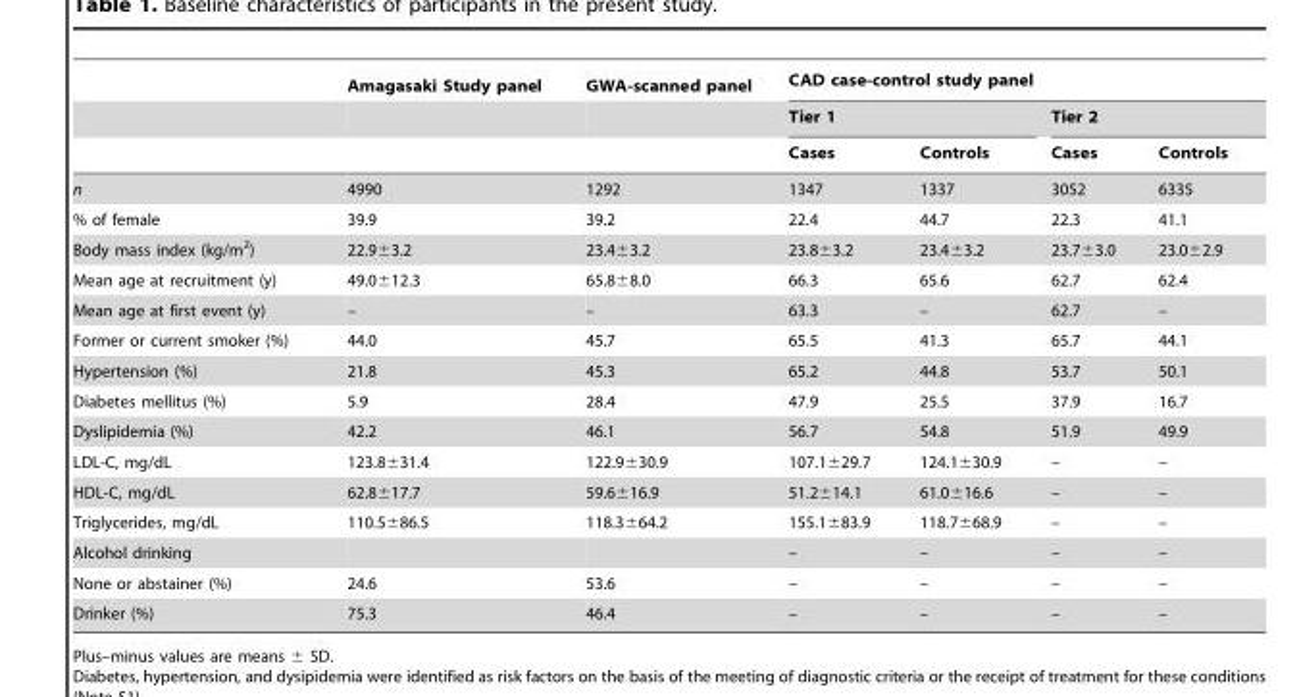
<table><thead><tr><td rowspan="3"></td><td rowspan="3">Amagasaki Study panel</td><td rowspan="3">GWA-scanned panel</td><td colspan="4">CAD case-control study panel</td></tr><tr><td colspan="2">Tier 1</td><td colspan="2">Tier 2</td></tr><tr><td>Cases</td><td>Controls</td><td>Cases</td><td>Controls</td></tr></thead><tbody><tr><td>n</td><td>4990</td><td>1292</td><td>1347</td><td>1337</td><td>3052</td><td>6335</td></tr><tr><td>% of female</td><td>39.9</td><td>39.2</td><td>22.4</td><td>44.7</td><td>22.3</td><td>41.1</td></tr><tr><td>Body mass index (kg/m<sup>2</sup>)</td><td>22.9±3.2</td><td>23.4±3.2</td><td>23.8±3.2</td><td>23.4±3.2</td><td>23.7±3.0</td><td>23.0±2.9</td></tr><tr><td>Mean age at recruitment (y)</td><td>49.0±12.3</td><td>65.8±8.0</td><td>66.3</td><td>65.6</td><td>62.7</td><td>62.4</td></tr><tr><td>Mean age at first event (y)</td><td>–</td><td>–</td><td>63.3</td><td>–</td><td>62.7</td><td>–</td></tr><tr><td>Former or current smoker (%)</td><td>44.0</td><td>45.7</td><td>65.5</td><td>41.3</td><td>65.7</td><td>44.1</td></tr><tr><td>Hypertension (%)</td><td>21.8</td><td>45.3</td><td>65.2</td><td>44.8</td><td>53.7</td><td>50.1</td></tr><tr><td>Diabetes mellitus (%)</td><td>5.9</td><td>28.4</td><td>47.9</td><td>25.5</td><td>37.9</td><td>16.7</td></tr><tr><td>Dyslipidemia (%)</td><td>42.2</td><td>46.1</td><td>56.7</td><td>54.8</td><td>51.9</td><td>49.9</td></tr><tr><td>LDL-C, mg/dL</td><td>123.8±31.4</td><td>122.9±30.9</td><td>107.1±29.7</td><td>124.1±30.9</td><td>–</td><td>–</td></tr><tr><td>HDL-C, mg/dL</td><td>62.8±17.7</td><td>59.6±16.9</td><td>51.2±14.1</td><td>61.0±16.6</td><td>–</td><td>–</td></tr><tr><td>Triglycerides, mg/dL</td><td>110.5±86.5</td><td>118.3±64.2</td><td>155.1±83.9</td><td>118.7±68.9</td><td>–</td><td>–</td></tr><tr><td>Alcohol drinking</td><td></td><td></td><td>–</td><td>–</td><td>–</td><td>–</td></tr><tr><td>None or abstainer (%)</td><td>24.6</td><td>53.6</td><td>–</td><td>–</td><td>–</td><td>–</td></tr><tr><td>Drinker (%)</td><td>75.3</td><td>46.4</td><td>–</td><td>–</td><td>–</td><td>–</td></tr></tbody></table>